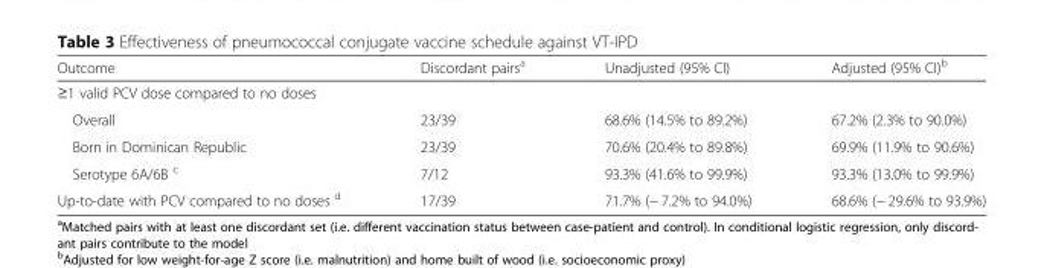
<table><thead><tr><td>Outcome</td><td>Discordant pairs<sup>a</sup></td><td>Unadjusted (95% CI)</td><td>Adjusted (95% CI)<sup>b</sup></td></tr></thead><tbody><tr><td colspan="4">≥1 valid PCV dose compared to no doses</td></tr><tr><td>Overall</td><td>23/39</td><td>68.6% (14.5% to 89.2%)</td><td>67.2% (2.3% to 90.0%)</td></tr><tr><td>Born in Dominican Republic</td><td>23/39</td><td>70.6% (20.4% to 89.8%)</td><td>69.9% (11.9% to 90.6%)</td></tr><tr><td>Serotype 6A/6B <sup>c</sup></td><td>7/12</td><td>93.3% (41.6% to 99.9%)</td><td>93.3% (13.0% to 99.9%)</td></tr><tr><td>Up-to-date with PCV compared to no doses <sup>d</sup></td><td>17/39</td><td>71.7% (− 7.2% to 94.0%)</td><td>68.6% (− 29.6% to 93.9%)</td></tr></tbody></table>